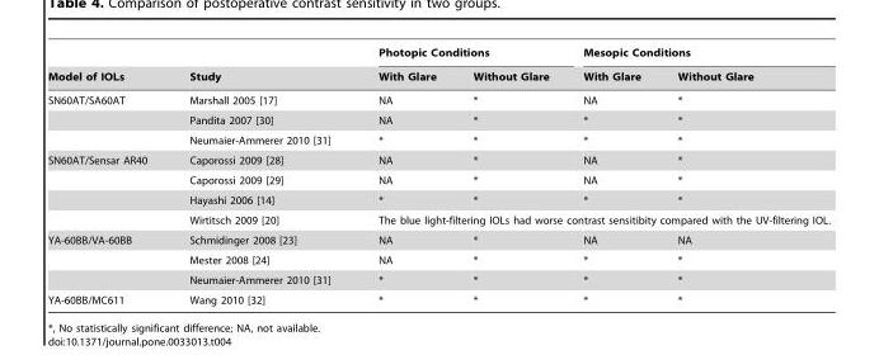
<table><thead><tr><td rowspan="2">Model of IOLs</td><td rowspan="2">Study</td><td colspan="2">Photopic Conditions</td><td colspan="2">Mesopic Conditions</td></tr><tr><td>With Glare</td><td>Without Glare</td><td>With Glare</td><td>Without Glare</td></tr></thead><tbody><tr><td rowspan="3">SN60AT/SA60AT</td><td>Marshall 2005 [17]</td><td>NA</td><td>*</td><td>NA</td><td>*</td></tr><tr><td>Pandita 2007 [30]</td><td>NA</td><td>*</td><td>*</td><td>*</td></tr><tr><td>Neumaier-Ammerer 2010 [31]</td><td>*</td><td>*</td><td>*</td><td>*</td></tr><tr><td rowspan="4">SN60AT/Sensar AR40</td><td>Caporossi 2009 [28]</td><td>NA</td><td>*</td><td>NA</td><td>*</td></tr><tr><td>Caporossi 2009 [29]</td><td>NA</td><td>*</td><td>NA</td><td>*</td></tr><tr><td>Hayashi 2006 [14]</td><td>*</td><td>*</td><td>*</td><td>*</td></tr><tr><td>Wirtitsch 2009 [20]</td><td colspan="4">The blue light-filtering IOLs had worse contrast sensitibity compared with the UV-filtering IOL.</td></tr><tr><td rowspan="3">YA-60BB/VA-60BB</td><td>Schmidinger 2008 [23]</td><td>NA</td><td>*</td><td>NA</td><td>NA</td></tr><tr><td>Mester 2008 [24]</td><td>NA</td><td>*</td><td>*</td><td>*</td></tr><tr><td>Neumaier-Ammerer 2010 [31]</td><td>*</td><td>*</td><td>*</td><td>*</td></tr><tr><td>YA-60BB/MC611</td><td>Wang 2010 [32]</td><td>*</td><td>*</td><td>*</td><td>*</td></tr></tbody></table>